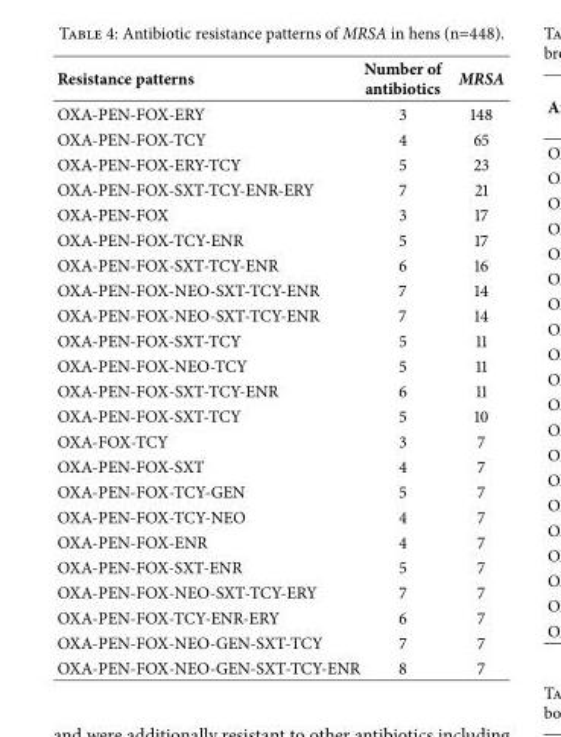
<table><thead><tr><td>Resistance patterns</td><td>Number of antibiotics</td><td>MRSA</td></tr></thead><tbody><tr><td>OXA-PEN-FOX-ERY</td><td>3</td><td>148</td></tr><tr><td>OXA-PEN-FOX-TCY</td><td>4</td><td>65</td></tr><tr><td>OXA-PEN-FOX-ERY-TCY</td><td>5</td><td>23</td></tr><tr><td>OXA-PEN-FOX-SXT-TCY-ENR-ERY</td><td>7</td><td>21</td></tr><tr><td>OXA-PEN-FOX</td><td>3</td><td>17</td></tr><tr><td>OXA-PEN-FOX-TCY-ENR</td><td>5</td><td>17</td></tr><tr><td>OXA-PEN-FOX-SXT-TCY-ENR</td><td>6</td><td>16</td></tr><tr><td>OXA-PEN-FOX-NEO-SXT-TCY-ENR</td><td>7</td><td>14</td></tr><tr><td>OXA-PEN-FOX-NEO-SXT-TCY-ENR</td><td>7</td><td>14</td></tr><tr><td>OXA-PEN-FOX-SXT-TCY</td><td>5</td><td>11</td></tr><tr><td>OXA-PEN-FOX-NEO-TCY</td><td>5</td><td>11</td></tr><tr><td>OXA-PEN-FOX-SXT-TCY-ENR</td><td>6</td><td>11</td></tr><tr><td>OXA-PEN-FOX-SXT-TCY</td><td>5</td><td>10</td></tr><tr><td>OXA-FOX-TCY</td><td>3</td><td>7</td></tr><tr><td>OXA-PEN-FOX-SXT</td><td>4</td><td>7</td></tr><tr><td>OXA-PEN-FOX-TCY-GEN</td><td>5</td><td>7</td></tr><tr><td>OXA-PEN-FOX-TCY-NEO</td><td>4</td><td>7</td></tr><tr><td>OXA-PEN-FOX-ENR</td><td>4</td><td>7</td></tr><tr><td>OXA-PEN-FOX-SXT-ENR</td><td>5</td><td>7</td></tr><tr><td>OXA-PEN-FOX-NEO-SXT-TCY-ERY</td><td>7</td><td>7</td></tr><tr><td>OXA-PEN-FOX-TCY-ENR-ERY</td><td>6</td><td>7</td></tr><tr><td>OXA-PEN-FOX-NEO-GEN-SXT-TCY</td><td>7</td><td>7</td></tr><tr><td>OXA-PEN-FOX-NEO-GEN-SXT-TCY-ENR</td><td>8</td><td>7</td></tr></tbody></table>